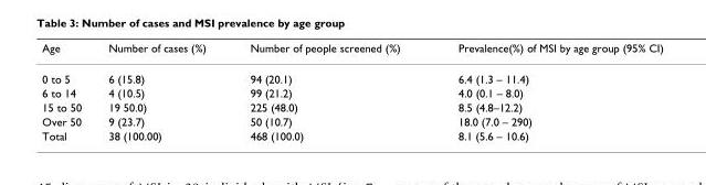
<table><thead><tr><td>Age</td><td>Number of cases (%)</td><td>Number of people screened (%)</td><td>Prevalence(%) of MSI by age group (95% CI)</td></tr></thead><tbody><tr><td>0 to 5</td><td>6 (15.8)</td><td>94 (20.1)</td><td>6.4 (1.3 – 11.4)</td></tr><tr><td>6 to 14</td><td>4 (10.5)</td><td>99 (21.2)</td><td>4.0 (0.1 – 8.0)</td></tr><tr><td>15 to 50</td><td>19 50.0)</td><td>225 (48.0)</td><td>8.5 (4.8–12.2)</td></tr><tr><td>Over 50</td><td>9 (23.7)</td><td>50 (10.7)</td><td>18.0 (7.0 – 290)</td></tr><tr><td>Total</td><td>38 (100.00)</td><td>468 (100.0)</td><td>8.1 (5.6 – 10.6)</td></tr></tbody></table>